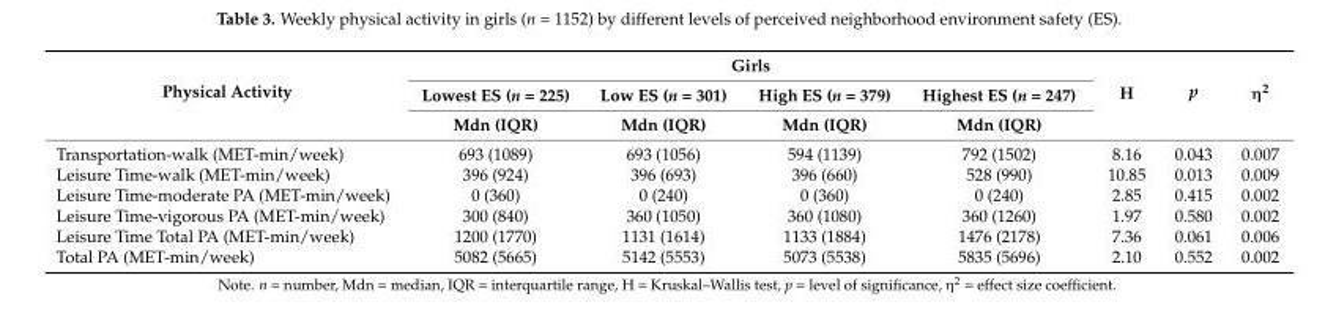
<table><thead><tr><td rowspan="3">Physical Activity</td><td colspan="4">Girls</td><td rowspan="3">H</td><td rowspan="3">p</td><td rowspan="3">η<sup>2</sup></td></tr><tr><td rowspan="2">Lowest ES (n = 225) Mdn (IQR)</td><td rowspan="2">Low ES (n = 301) Mdn (IQR)</td><td rowspan="2">High ES (n = 379) Mdn (IQR)</td><td rowspan="2">Highest ES (n = 247) Mdn (IQR)</td></tr><tr></tr></thead><tbody><tr><td>Transportation-walk (MET-min/week)</td><td>693 (1089)</td><td>693 (1056)</td><td>594 (1139)</td><td>792 (1502)</td><td>8.16</td><td>0.043</td><td>0.007</td></tr><tr><td>Leisure Time-walk (MET-min/week)</td><td>396 (924)</td><td>396 (693)</td><td>396 (660)</td><td>528 (990)</td><td>10.85</td><td>0.013</td><td>0.009</td></tr><tr><td>Leisure Time-moderate PA (MET-min/week)</td><td>0 (360)</td><td>0 (240)</td><td>0 (360)</td><td>0 (240)</td><td>2.85</td><td>0.415</td><td>0.002</td></tr><tr><td>Leisure Time-vigorous PA (MET-min/week)</td><td>300 (840)</td><td>360 (1050)</td><td>360 (1080)</td><td>360 (1260)</td><td>1.97</td><td>0.580</td><td>0.002</td></tr><tr><td>Leisure Time Total PA (MET-min/week)</td><td>1200 (1770)</td><td>1131 (1614)</td><td>1133 (1884)</td><td>1476 (2178)</td><td>7.36</td><td>0.061</td><td>0.006</td></tr><tr><td>Total PA (MET-min/week)</td><td>5082 (5665)</td><td>5142 (5553)</td><td>5073 (5538)</td><td>5835 (5696)</td><td>2.10</td><td>0.552</td><td>0.002</td></tr></tbody></table>